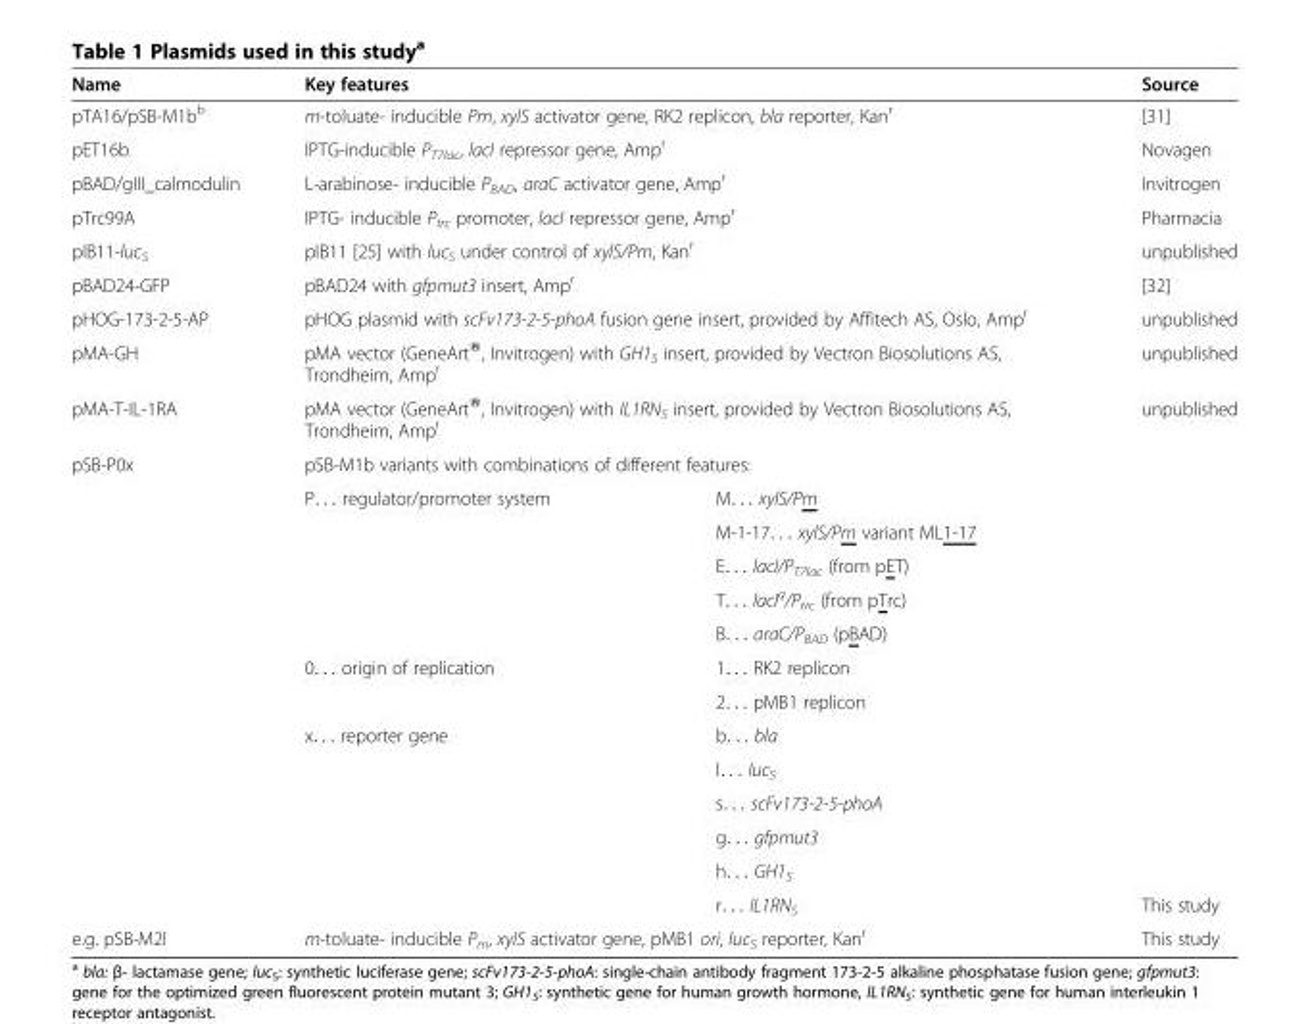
<table><thead><tr><td>Name</td><td colspan="2">Key features</td><td>Source</td></tr></thead><tbody><tr><td>pTA16/pSB-M1b<sup>b</sup></td><td colspan="2">m-toluate- inducible Pm, xylS activator gene, RK2 replicon, bla reporter, Kan<sup>r</sup></td><td>[31]</td></tr><tr><td>pET16b</td><td colspan="2">IPTG-inducible P<sub>T7lac</sub>, lacI repressor gene, Amp<sup>r</sup></td><td>Novagen</td></tr><tr><td>pBAD/gIII_calmodulin</td><td colspan="2">L-arabinose- inducible P<sub>BAD</sub>, araC activator gene, Amp<sup>r</sup></td><td>Invitrogen</td></tr><tr><td>pTrc99A</td><td colspan="2">IPTG- inducible P<sub>trc</sub> promoter, lacI repressor gene, Amp<sup>r</sup></td><td>Pharmacia</td></tr><tr><td>pIB11-luc<sub>S</sub></td><td colspan="2">pIB11 [25] with luc<sub>S</sub> under control of xylS/Pm, Kan<sup>r</sup></td><td>unpublished</td></tr><tr><td>pBAD24-GFP</td><td colspan="2">pBAD24 with gfpmut3 insert, Amp<sup>r</sup></td><td>[32]</td></tr><tr><td>pHOG-173-2-5-AP</td><td colspan="2">pHOG plasmid with scFv173-2-5-phoA fusion gene insert, provided by Affitech AS, Oslo, Amp<sup>r</sup></td><td>unpublished</td></tr><tr><td>pMA-GH</td><td colspan="2">pMA vector (GeneArt®, Invitrogen) with GH1<sub>S</sub> insert, provided by Vectron Biosolutions AS, Trondheim, Amp<sup>r</sup></td><td>unpublished</td></tr><tr><td>pMA-T-IL-1RA</td><td colspan="2">pMA vector (GeneArt®, Invitrogen) with IL1RN<sub>S</sub> insert, provided by Vectron Biosolutions AS, Trondheim, Amp<sup>r</sup></td><td>unpublished</td></tr><tr><td rowspan="14">pSB-P0x</td><td colspan="2">pSB-M1b variants with combinations of different features:</td><td></td></tr><tr><td>P. . . regulator/promoter system</td><td>M. . . xylS/Pm</td><td></td></tr><tr><td></td><td>M-1-17. . . xylS/Pm variant ML1-17</td><td></td></tr><tr><td></td><td>E. . . lacI/P<sub>T7lac</sub> (from pET)</td><td></td></tr><tr><td></td><td>T. . . lacI<sup>q</sup>/P<sub>trc</sub> (from pTrc)</td><td></td></tr><tr><td></td><td>B. . . araC/P<sub>BAD</sub> (pBAD)</td><td></td></tr><tr><td>0. . . origin of replication</td><td>1. . . RK2 replicon</td><td></td></tr><tr><td></td><td>2. . . pMB1 replicon</td><td></td></tr><tr><td>x. . . reporter gene</td><td>b. . . bla</td><td></td></tr><tr><td></td><td>l. . . luc<sub>S</sub></td><td></td></tr><tr><td></td><td>s. . . scFv173-2-5-phoA</td><td></td></tr><tr><td></td><td>g. . . gfpmut3</td><td></td></tr><tr><td></td><td>h. . . GH1<sub>S</sub></td><td></td></tr><tr><td></td><td>r. . . IL1RN<sub>S</sub></td><td>This study</td></tr><tr><td>e.g. pSB-M2l</td><td colspan="2">m-toluate- inducible P<sub>m</sub>, xylS activator gene, pMB1 ori, luc<sub>S</sub> reporter, Kan<sup>r</sup></td><td>This study</td></tr></tbody></table>